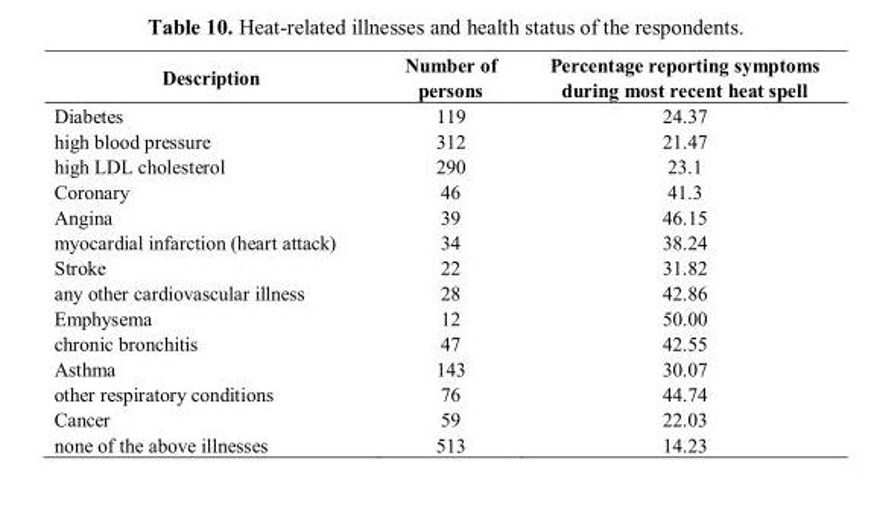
<table><thead><tr><td>Description</td><td>Number of persons</td><td>Percentage reporting symptoms during most recent heat spell</td></tr></thead><tbody><tr><td>Diabetes</td><td>119</td><td>24.37</td></tr><tr><td>high blood pressure</td><td>312</td><td>21.47</td></tr><tr><td>high LDL cholesterol</td><td>290</td><td>23.1</td></tr><tr><td>Coronary</td><td>46</td><td>41.3</td></tr><tr><td>Angina</td><td>39</td><td>46.15</td></tr><tr><td>myocardial infarction (heart attack)</td><td>34</td><td>38.24</td></tr><tr><td>Stroke</td><td>22</td><td>31.82</td></tr><tr><td>any other cardiovascular illness</td><td>28</td><td>42.86</td></tr><tr><td>Emphysema</td><td>12</td><td>50.00</td></tr><tr><td>chronic bronchitis</td><td>47</td><td>42.55</td></tr><tr><td>Asthma</td><td>143</td><td>30.07</td></tr><tr><td>other respiratory conditions</td><td>76</td><td>44.74</td></tr><tr><td>Cancer</td><td>59</td><td>22.03</td></tr><tr><td>none of the above illnesses</td><td>513</td><td>14.23</td></tr></tbody></table>